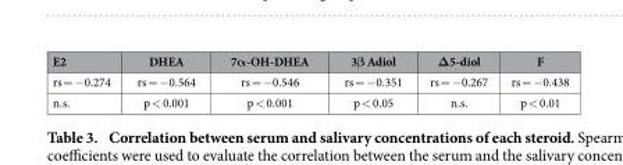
<table><thead><tr><td>E2</td><td>DHEA</td><td>7α-OH-DHEA</td><td>3β Adiol</td><td>Δ5-diol</td><td>F</td></tr></thead><tbody><tr><td>rs = − 0.274</td><td>rs = − 0.564</td><td>rs = − 0.546</td><td>rs = − 0.351</td><td>rs = − 0.267</td><td>rs = − 0.438</td></tr><tr><td>n.s.</td><td>p &lt; 0.001</td><td>p &lt; 0.001</td><td>p &lt; 0.05</td><td>n.s.</td><td>p &lt; 0.01</td></tr></tbody></table>